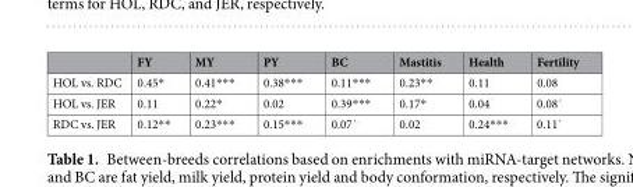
<table><thead><tr><td></td><td>FY</td><td>MY</td><td>PY</td><td>BC</td><td>Mastitis</td><td>Health</td><td>Fertility</td></tr></thead><tbody><tr><td>HOL vs. RDC</td><td>0.45*</td><td>0.41***</td><td>0.38***</td><td>0.11***</td><td>0.23**</td><td>0.11</td><td>0.08</td></tr><tr><td>HOL vs. JER</td><td>0.11</td><td>0.22*</td><td>0.02</td><td>0.39***</td><td>0.17*</td><td>0.04</td><td>0.08˙</td></tr><tr><td>RDC vs. JER</td><td>0.12**</td><td>0.23***</td><td>0.15***</td><td>0.07˙</td><td>0.02</td><td>0.24***</td><td>0.11˙</td></tr></tbody></table>